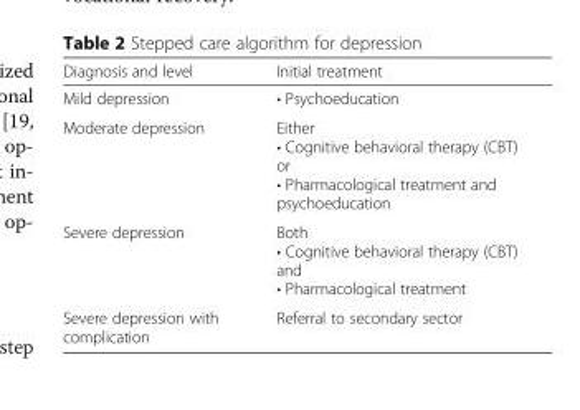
<table><thead><tr><td>Diagnosis and level</td><td>Initial treatment</td></tr></thead><tbody><tr><td>Mild depression</td><td>• Psychoeducation</td></tr><tr><td>Moderate depression</td><td>Either • Cognitive behavioral therapy (CBT) or • Pharmacological treatment and psychoeducation</td></tr><tr><td>Severe depression</td><td>Both • Cognitive behavioral therapy (CBT) and • Pharmacological treatment</td></tr><tr><td>Severe depression with complication</td><td>Referral to secondary sector</td></tr></tbody></table>